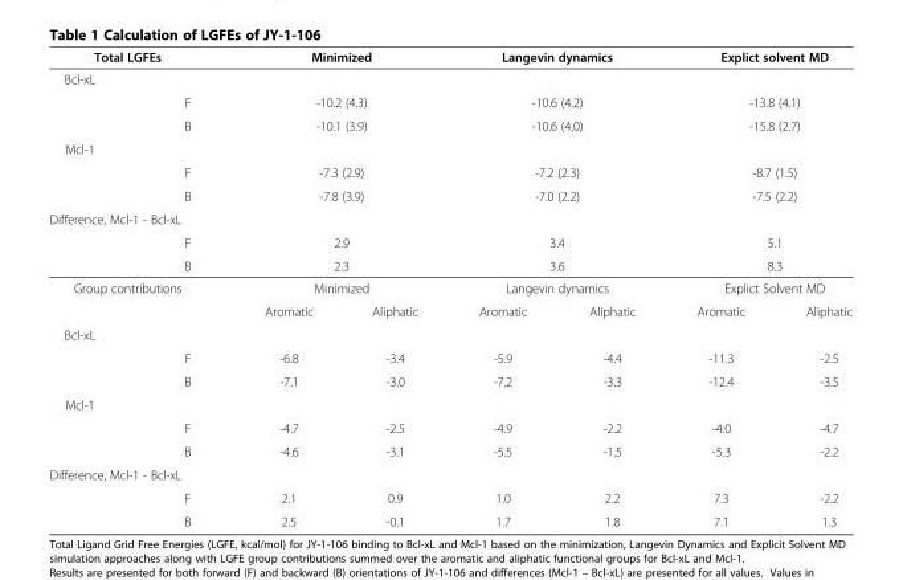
<table><thead><tr><td colspan="2">Total LGFEs</td><td colspan="2">Minimized</td><td colspan="2">Langevin dynamics</td><td colspan="2">Explict solvent MD</td></tr></thead><tbody><tr><td colspan="8">Bcl-xL</td></tr><tr><td></td><td>F</td><td colspan="2">-10.2 (4.3)</td><td colspan="2">-10.6 (4.2)</td><td colspan="2">-13.8 (4.1)</td></tr><tr><td></td><td>B</td><td colspan="2">-10.1 (3.9)</td><td colspan="2">-10.6 (4.0)</td><td colspan="2">-15.8 (2.7)</td></tr><tr><td colspan="8">Mcl-1</td></tr><tr><td></td><td>F</td><td colspan="2">-7.3 (2.9)</td><td colspan="2">-7.2 (2.3)</td><td colspan="2">-8.7 (1.5)</td></tr><tr><td></td><td>B</td><td colspan="2">-7.8 (3.9)</td><td colspan="2">-7.0 (2.2)</td><td colspan="2">-7.5 (2.2)</td></tr><tr><td colspan="8">Difference, Mcl-1 - Bcl-xL</td></tr><tr><td></td><td>F</td><td colspan="2">2.9</td><td colspan="2">3.4</td><td colspan="2">5.1</td></tr><tr><td></td><td>B</td><td colspan="2">2.3</td><td colspan="2">3.6</td><td colspan="2">8.3</td></tr><tr><td colspan="2">Group contributions</td><td colspan="2">Minimized</td><td colspan="2">Langevin dynamics</td><td colspan="2">Explict Solvent MD</td></tr><tr><td></td><td></td><td>Aromatic</td><td>Aliphatic</td><td>Aromatic</td><td>Aliphatic</td><td>Aromatic</td><td>Aliphatic</td></tr><tr><td colspan="8">Bcl-xL</td></tr><tr><td></td><td>F</td><td>-6.8</td><td>-3.4</td><td>-5.9</td><td>-4.4</td><td>-11.3</td><td>-2.5</td></tr><tr><td></td><td>B</td><td>-7.1</td><td>-3.0</td><td>-7.2</td><td>-3.3</td><td>-12.4</td><td>-3.5</td></tr><tr><td colspan="8">Mcl-1</td></tr><tr><td></td><td>F</td><td>-4.7</td><td>-2.5</td><td>-4.9</td><td>-2.2</td><td>-4.0</td><td>-4.7</td></tr><tr><td></td><td>B</td><td>-4.6</td><td>-3.1</td><td>-5.5</td><td>-1.5</td><td>-5.3</td><td>-2.2</td></tr><tr><td colspan="8">Difference, Mcl-1 - Bcl-xL</td></tr><tr><td></td><td>F</td><td>2.1</td><td>0.9</td><td>1.0</td><td>2.2</td><td>7.3</td><td>-2.2</td></tr><tr><td></td><td>B</td><td>2.5</td><td>-0.1</td><td>1.7</td><td>1.8</td><td>7.1</td><td>1.3</td></tr></tbody></table>